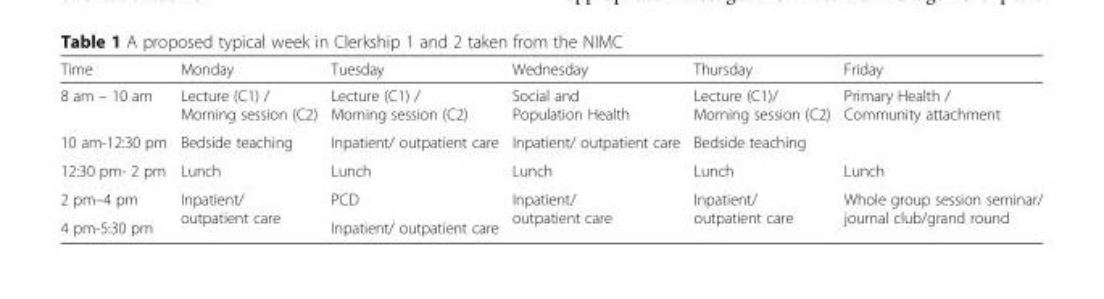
<table><thead><tr><td>Time</td><td>Monday</td><td>Tuesday</td><td>Wednesday</td><td>Thursday</td><td>Friday</td></tr></thead><tbody><tr><td>8 am – 10 am</td><td>Lecture (C1) / Morning session (C2)</td><td>Lecture (C1) / Morning session (C2)</td><td>Social and Population Health</td><td>Lecture (C1)/ Morning session (C2)</td><td rowspan="2">Primary Health / Community attachment</td></tr><tr><td>10 am-12:30 pm</td><td>Bedside teaching</td><td>Inpatient/ outpatient care</td><td>Inpatient/ outpatient care</td><td>Bedside teaching</td></tr><tr><td>12:30 pm- 2 pm</td><td>Lunch</td><td>Lunch</td><td>Lunch</td><td>Lunch</td><td>Lunch</td></tr><tr><td>2 pm–4 pm</td><td rowspan="2">Inpatient/ outpatient care</td><td>PCD</td><td rowspan="2">Inpatient/ outpatient care</td><td rowspan="2">Inpatient/ outpatient care</td><td rowspan="2">Whole group session seminar/ journal club/grand round</td></tr><tr><td>4 pm-5:30 pm</td><td>Inpatient/ outpatient care</td></tr></tbody></table>